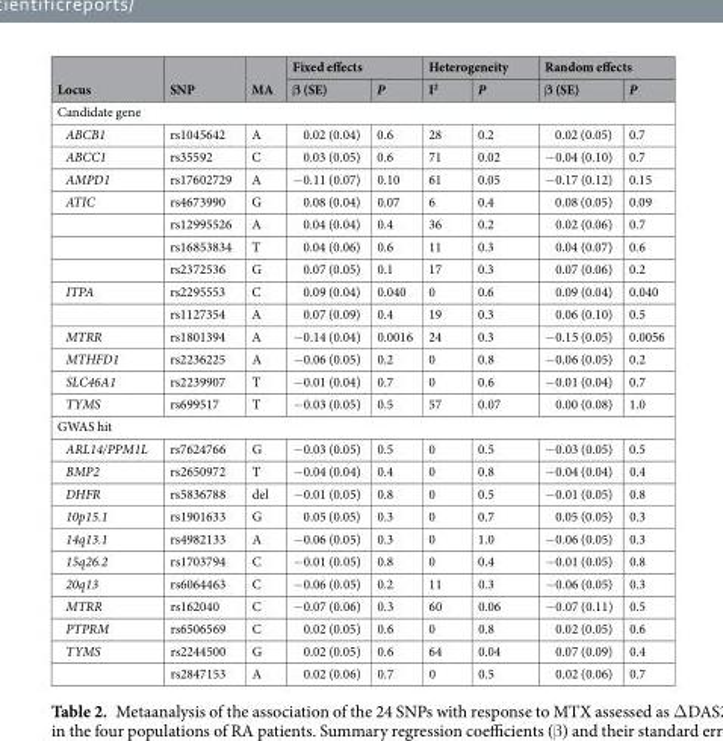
<table><thead><tr><td rowspan="2">Locus</td><td rowspan="2">SNP</td><td rowspan="2">MA</td><td colspan="2">Fixed effects</td><td colspan="2">Heterogeneity</td><td colspan="2">Random effects</td></tr><tr><td>β (SE)</td><td>P</td><td>I<sup>2</sup></td><td>P</td><td>β (SE)</td><td>P</td></tr></thead><tbody><tr><td colspan="9">Candidate gene</td></tr><tr><td>ABCB1</td><td>rs1045642</td><td>A</td><td>0.02 (0.04)</td><td>0.6</td><td>28</td><td>0.2</td><td>0.02 (0.05)</td><td>0.7</td></tr><tr><td>ABCC1</td><td>rs35592</td><td>C</td><td>0.03 (0.05)</td><td>0.6</td><td>71</td><td>0.02</td><td>−0.04 (0.10)</td><td>0.7</td></tr><tr><td>AMPD1</td><td>rs17602729</td><td>A</td><td>−0.11 (0.07)</td><td>0.10</td><td>61</td><td>0.05</td><td>−0.17 (0.12)</td><td>0.15</td></tr><tr><td rowspan="4">ATIC</td><td>rs4673990</td><td>G</td><td>0.08 (0.04)</td><td>0.07</td><td>6</td><td>0.4</td><td>0.08 (0.05)</td><td>0.09</td></tr><tr><td>rs12995526</td><td>A</td><td>0.04 (0.04)</td><td>0.4</td><td>36</td><td>0.2</td><td>0.02 (0.06)</td><td>0.7</td></tr><tr><td>rs16853834</td><td>T</td><td>0.04 (0.06)</td><td>0.6</td><td>11</td><td>0.3</td><td>0.04 (0.07)</td><td>0.6</td></tr><tr><td>rs2372536</td><td>G</td><td>0.07 (0.05)</td><td>0.1</td><td>17</td><td>0.3</td><td>0.07 (0.06)</td><td>0.2</td></tr><tr><td rowspan="2">ITPA</td><td>rs2295553</td><td>C</td><td>0.09 (0.04)</td><td>0.040</td><td>0</td><td>0.6</td><td>0.09 (0.04)</td><td>0.040</td></tr><tr><td>rs1127354</td><td>A</td><td>0.07 (0.09)</td><td>0.4</td><td>19</td><td>0.3</td><td>0.06 (0.10)</td><td>0.5</td></tr><tr><td>MTRR</td><td>rs1801394</td><td>A</td><td>−0.14 (0.04)</td><td>0.0016</td><td>24</td><td>0.3</td><td>−0.15 (0.05)</td><td>0.0056</td></tr><tr><td>MTHFD1</td><td>rs2236225</td><td>A</td><td>−0.06 (0.05)</td><td>0.2</td><td>0</td><td>0.8</td><td>−0.06 (0.05)</td><td>0.2</td></tr><tr><td>SLC46A1</td><td>rs2239907</td><td>T</td><td>−0.01 (0.04)</td><td>0.7</td><td>0</td><td>0.6</td><td>−0.01 (0.04)</td><td>0.7</td></tr><tr><td>TYMS</td><td>rs699517</td><td>T</td><td>−0.03 (0.05)</td><td>0.5</td><td>57</td><td>0.07</td><td>0.00 (0.08)</td><td>1.0</td></tr><tr><td colspan="9">GWAS hit</td></tr><tr><td>ARL14/PPM1L</td><td>rs7624766</td><td>G</td><td>−0.03 (0.05)</td><td>0.5</td><td>0</td><td>0.5</td><td>−0.03 (0.05)</td><td>0.5</td></tr><tr><td>BMP2</td><td>rs2650972</td><td>T</td><td>−0.04 (0.04)</td><td>0.4</td><td>0</td><td>0.8</td><td>−0.04 (0.04)</td><td>0.4</td></tr><tr><td>DHFR</td><td>rs5836788</td><td>del</td><td>−0.01 (0.05)</td><td>0.8</td><td>0</td><td>0.5</td><td>−0.01 (0.05)</td><td>0.8</td></tr><tr><td>10p15.1</td><td>rs1901633</td><td>G</td><td>0.05 (0.05)</td><td>0.3</td><td>0</td><td>0.7</td><td>0.05 (0.05)</td><td>0.3</td></tr><tr><td>14q13.1</td><td>rs4982133</td><td>A</td><td>−0.06 (0.05)</td><td>0.3</td><td>0</td><td>1.0</td><td>−0.06 (0.05)</td><td>0.3</td></tr><tr><td>15q26.2</td><td>rs1703794</td><td>C</td><td>−0.01 (0.05)</td><td>0.8</td><td>0</td><td>0.4</td><td>−0.01 (0.05)</td><td>0.8</td></tr><tr><td>20q13</td><td>rs6064463</td><td>C</td><td>−0.06 (0.05)</td><td>0.2</td><td>11</td><td>0.3</td><td>−0.06 (0.05)</td><td>0.3</td></tr><tr><td>MTRR</td><td>rs162040</td><td>C</td><td>−0.07 (0.06)</td><td>0.3</td><td>60</td><td>0.06</td><td>−0.07 (0.11)</td><td>0.5</td></tr><tr><td>PTPRM</td><td>rs6506569</td><td>C</td><td>0.02 (0.05)</td><td>0.6</td><td>0</td><td>0.8</td><td>0.02 (0.05)</td><td>0.6</td></tr><tr><td rowspan="2">TYMS</td><td>rs2244500</td><td>G</td><td>0.02 (0.05)</td><td>0.6</td><td>64</td><td>0.04</td><td>0.07 (0.09)</td><td>0.4</td></tr><tr><td>rs2847153</td><td>A</td><td>0.02 (0.06)</td><td>0.7</td><td>0</td><td>0.5</td><td>0.02 (0.06)</td><td>0.7</td></tr></tbody></table>